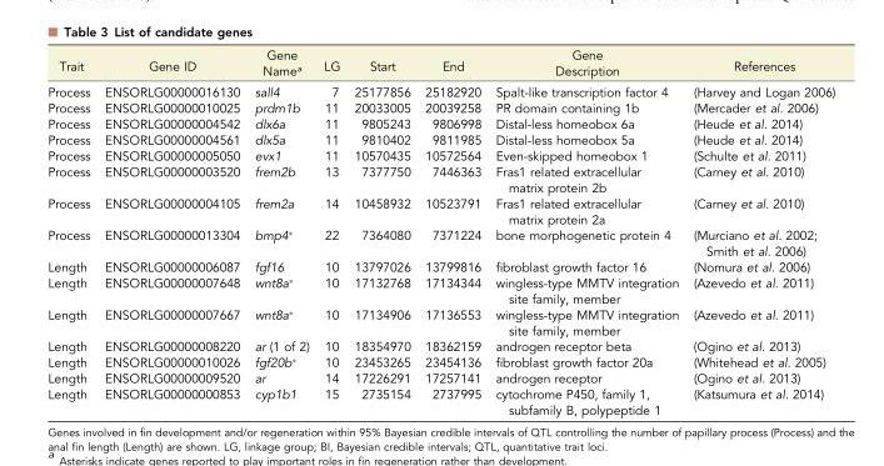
<table><thead><tr><td>Trait</td><td>Gene ID</td><td>Gene Name<sup>a</sup></td><td>LG</td><td>Start</td><td>End</td><td>Gene Description</td><td>References</td></tr></thead><tbody><tr><td>Process</td><td>ENSORLG00000016130</td><td>sall4</td><td>7</td><td>25177856</td><td>25182920</td><td>Spalt-like transcription factor 4</td><td>(Harvey and Logan 2006)</td></tr><tr><td>Process</td><td>ENSORLG00000010025</td><td>prdm1b</td><td>11</td><td>20033005</td><td>20039258</td><td>PR domain containing 1b</td><td>(Mercader et al. 2006)</td></tr><tr><td>Process</td><td>ENSORLG00000004542</td><td>dlx6a</td><td>11</td><td>9805243</td><td>9806998</td><td>Distal-less homeobox 6a</td><td>(Heude et al. 2014)</td></tr><tr><td>Process</td><td>ENSORLG00000004561</td><td>dlx5a</td><td>11</td><td>9810402</td><td>9811985</td><td>Distal-less homeobox 5a</td><td>(Heude et al. 2014)</td></tr><tr><td>Process</td><td>ENSORLG00000005050</td><td>evx1</td><td>11</td><td>10570435</td><td>10572564</td><td>Even-skipped homeobox 1</td><td>(Schulte et al. 2011)</td></tr><tr><td>Process</td><td>ENSORLG00000003520</td><td>frem2b</td><td>13</td><td>7377750</td><td>7446363</td><td>Fras1 related extracellular matrix protein 2b</td><td>(Carney et al. 2010)</td></tr><tr><td>Process</td><td>ENSORLG00000004105</td><td>frem2a</td><td>14</td><td>10458932</td><td>10523791</td><td>Fras1 related extracellular matrix protein 2a</td><td>(Carney et al. 2010)</td></tr><tr><td>Process</td><td>ENSORLG00000013304</td><td>bmp4*</td><td>22</td><td>7364080</td><td>7371224</td><td>bone morphogenetic protein 4</td><td>(Murciano et al. 2002; Smith et al. 2006)</td></tr><tr><td>Length</td><td>ENSORLG00000006087</td><td>fgf16</td><td>10</td><td>13797026</td><td>13799816</td><td>fibroblast growth factor 16</td><td>(Nomura et al. 2006)</td></tr><tr><td>Length</td><td>ENSORLG00000007648</td><td>wnt8a*</td><td>10</td><td>17132768</td><td>17134344</td><td>wingless-type MMTV integration site family, member</td><td>(Azevedo et al. 2011)</td></tr><tr><td>Length</td><td>ENSORLG00000007667</td><td>wnt8a*</td><td>10</td><td>17134906</td><td>17136553</td><td>wingless-type MMTV integration site family, member</td><td>(Azevedo et al. 2011)</td></tr><tr><td>Length</td><td>ENSORLG00000008220</td><td>ar (1 of 2)</td><td>10</td><td>18354970</td><td>18362159</td><td>androgen receptor beta</td><td>(Ogino et al. 2013)</td></tr><tr><td>Length</td><td>ENSORLG00000010026</td><td>fgf20b*</td><td>10</td><td>23453265</td><td>23454136</td><td>fibroblast growth factor 20a</td><td>(Whitehead et al. 2005)</td></tr><tr><td>Length</td><td>ENSORLG00000009520</td><td>ar</td><td>14</td><td>17226291</td><td>17257141</td><td>androgen receptor</td><td>(Ogino et al. 2013)</td></tr><tr><td>Length</td><td>ENSORLG00000000853</td><td>cyp1b1</td><td>15</td><td>2735154</td><td>2737995</td><td>cytochrome P450, family 1, subfamily B, polypeptide 1</td><td>(Katsumura et al. 2014)</td></tr></tbody></table>